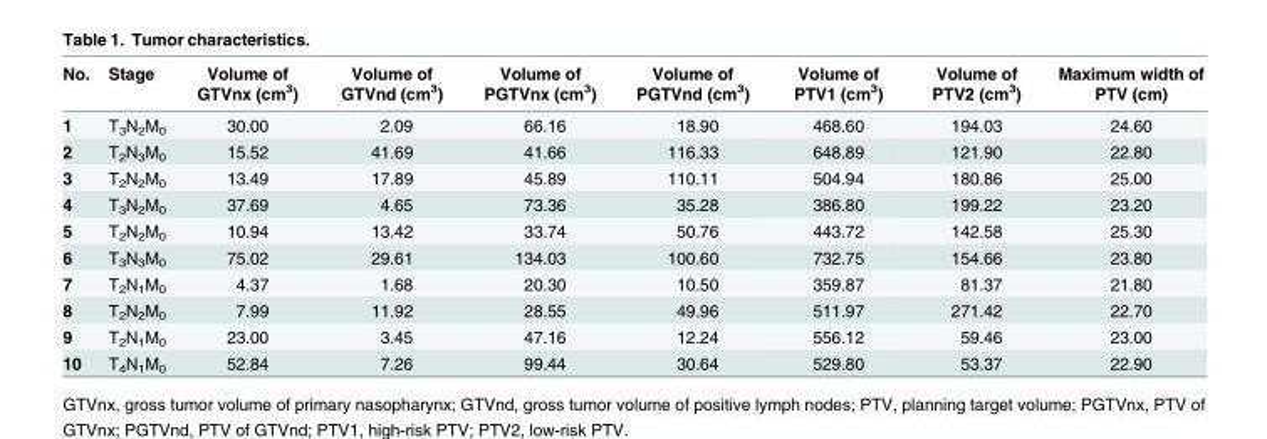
<table><thead><tr><td>No.</td><td>Stage</td><td>Volume of GTVnx (cm<sup>3</sup>)</td><td>Volume of GTVnd (cm<sup>3</sup>)</td><td>Volume of PGTVnx (cm<sup>3</sup>)</td><td>Volume of PGTVnd (cm<sup>3</sup>)</td><td>Volume of PTV1 (cm<sup>3</sup>)</td><td>Volume of PTV2 (cm<sup>3</sup>)</td><td>Maximum width of PTV (cm)</td></tr></thead><tbody><tr><td>1</td><td>T<sub>3</sub>N<sub>2</sub>M<sub>0</sub></td><td>30.00</td><td>2.09</td><td>66.16</td><td>18.90</td><td>468.60</td><td>194.03</td><td>24.60</td></tr><tr><td>2</td><td>T<sub>2</sub>N<sub>3</sub>M<sub>0</sub></td><td>15.52</td><td>41.69</td><td>41.66</td><td>116.33</td><td>648.89</td><td>121.90</td><td>22.80</td></tr><tr><td>3</td><td>T<sub>2</sub>N<sub>2</sub>M<sub>0</sub></td><td>13.49</td><td>17.89</td><td>45.89</td><td>110.11</td><td>504.94</td><td>180.86</td><td>25.00</td></tr><tr><td>4</td><td>T<sub>3</sub>N<sub>2</sub>M<sub>0</sub></td><td>37.69</td><td>4.65</td><td>73.36</td><td>35.28</td><td>386.80</td><td>199.22</td><td>23.20</td></tr><tr><td>5</td><td>T<sub>2</sub>N<sub>2</sub>M<sub>0</sub></td><td>10.94</td><td>13.42</td><td>33.74</td><td>50.76</td><td>443.72</td><td>142.58</td><td>25.30</td></tr><tr><td>6</td><td>T<sub>3</sub>N<sub>3</sub>M<sub>0</sub></td><td>75.02</td><td>29.61</td><td>134.03</td><td>100.60</td><td>732.75</td><td>154.66</td><td>23.80</td></tr><tr><td>7</td><td>T<sub>2</sub>N<sub>1</sub>M<sub>0</sub></td><td>4.37</td><td>1.68</td><td>20.30</td><td>10.50</td><td>359.87</td><td>81.37</td><td>21.80</td></tr><tr><td>8</td><td>T<sub>2</sub>N<sub>2</sub>M<sub>0</sub></td><td>7.99</td><td>11.92</td><td>28.55</td><td>49.96</td><td>511.97</td><td>271.42</td><td>22.70</td></tr><tr><td>9</td><td>T<sub>2</sub>N<sub>1</sub>M<sub>0</sub></td><td>23.00</td><td>3.45</td><td>47.16</td><td>12.24</td><td>556.12</td><td>59.46</td><td>23.00</td></tr><tr><td>10</td><td>T<sub>4</sub>N<sub>1</sub>M<sub>0</sub></td><td>52.84</td><td>7.26</td><td>99.44</td><td>30.64</td><td>529.80</td><td>53.37</td><td>22.90</td></tr></tbody></table>